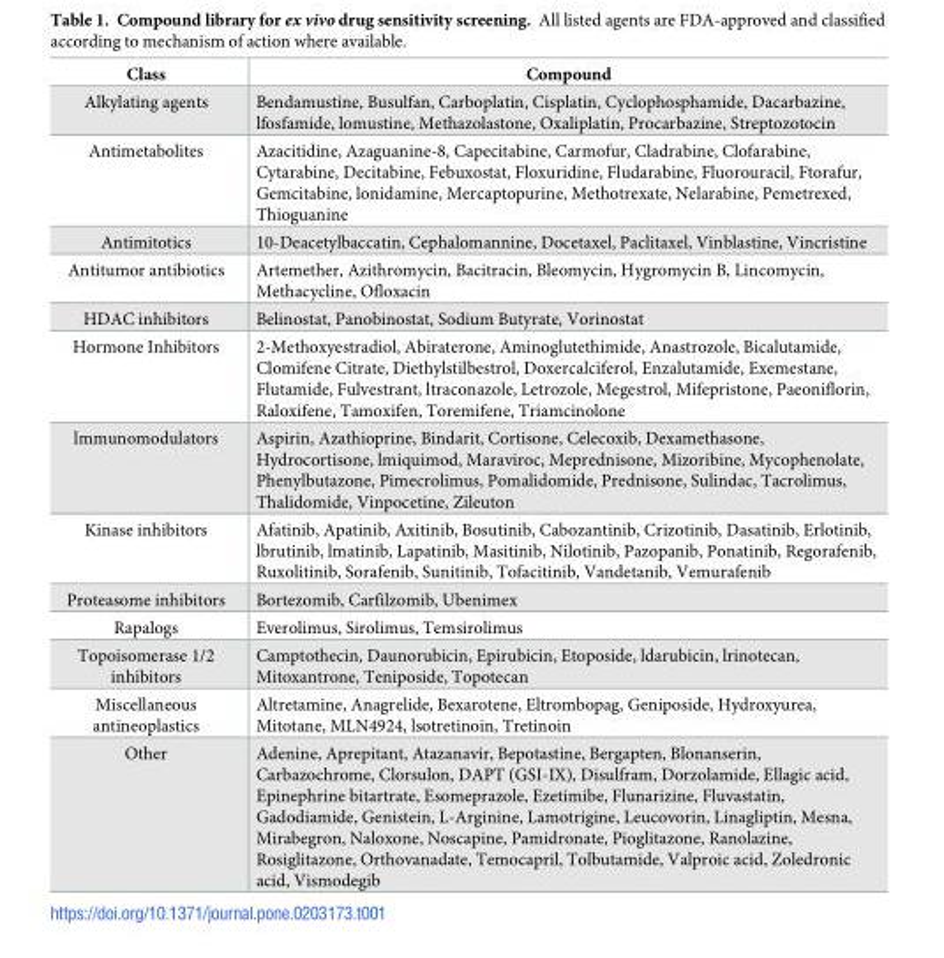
<table><thead><tr><td>Class</td><td>Compound</td></tr></thead><tbody><tr><td>Alkylating agents</td><td>Bendamustine, Busulfan, Carboplatin, Cisplatin, Cyclophosphamide, Dacarbazine, lfosfamide, lomustine, Methazolastone, Oxaliplatin, Procarbazine, Streptozotocin</td></tr><tr><td>Antimetabolites</td><td>Azacitidine, Azaguanine-8, Capecitabine, Carmofur, Cladrabine, Clofarabine, Cytarabine, Decitabine, Febuxostat, Floxuridine, Fludarabine, Fluorouracil, Ftorafur, Gemcitabine, lonidamine, Mercaptopurine, Methotrexate, Nelarabine, Pemetrexed, Thioguanine</td></tr><tr><td>Antimitotics</td><td>10-Deacetylbaccatin, Cephalomannine, Docetaxel, Paclitaxel, Vinblastine, Vincristine</td></tr><tr><td>Antitumor antibiotics</td><td>Artemether, Azithromycin, Bacitracin, Bleomycin, Hygromycin B, Lincomycin, Methacycline, Ofloxacin</td></tr><tr><td>HDAC inhibitors</td><td>Belinostat, Panobinostat, Sodium Butyrate, Vorinostat</td></tr><tr><td>Hormone Inhibitors</td><td>2-Methoxyestradiol, Abiraterone, Aminoglutethimide, Anastrozole, Bicalutamide, Clomifene Citrate, Diethylstilbestrol, Doxercalciferol, Enzalutamide, Exemestane, Flutamide, Fulvestrant, ltraconazole, Letrozole, Megestrol, Mifepristone, Paeoniflorin, Raloxifene, Tamoxifen, Toremifene, Triamcinolone</td></tr><tr><td>lmmunomodulators</td><td>Aspirin, Azathioprine, Bindarit, Cortisone, Celecoxib, Dexamethasone, Hydrocortisone, lmiquimod, Maraviroc, Meprednisone, Mizoribine, Mycophenolate, Phenylbutazone, Pimecrolimus, Pomalidomide, Prednisone, Sulindac, Tacrolimus, Thalidomide, Vinpocetine, Zileuton</td></tr><tr><td>Kinase inhibitors</td><td>Afatinib, Apatinib, Axitinib, Bosutinib, Cabozantinib, Crizotinib, Dasatinib, Erlotinib, lbrutinib, lmatinib, Lapatinib, Masitinib, Nilotinib, Pazopanib, Ponatinib, Regorafenib, Ruxolitinib, Sorafenib, Sunitinib, Tofacitinib, Vandetanib, Vemurafenib</td></tr><tr><td>Proteasome inhibitors</td><td>Bortezomib, Carfilzomib, Ubenimex</td></tr><tr><td>Rapalogs</td><td>Everolimus, Sirolimus, Temsirolimus</td></tr><tr><td>Topoisomerase 1/2 inhibitors</td><td>Camptothecin, Daunorubicin, Epirubicin, Etoposide, ldarubicin, lrinotecan, Mitoxantrone, Teniposide, Topotecan</td></tr><tr><td>Miscellaneous antineoplastics</td><td>Altretamine, Anagrelide, Bexarotene, Eltrombopag, Geniposide, Hydroxyurea, Mitotane, MLN4924, lsotretinoin, Tretinoin</td></tr><tr><td>Other</td><td>Adenine, Aprepitant, Atazanavir, Bepotastine, Bergapten, Blonanserin, Carbazochrome, Clorsulon, DAPT (GSI-IX), Disulfram, Dorzolamide, Ellagic acid, Epinephrine bitartrate, Esomeprazole, Ezetimibe, Flunarizine, Fluvastatin, Gadodiamide, Genistein, L-Arginine, Lamotrigine, Leucovorin, Linagliptin, Mesna, Mirabegron, Naloxone, Noscapine, Pamidronate, Pioglitazone, Ranolazine, Rosiglitazone, Orthovanadate, Temocapril, Tolbutamide, Valproic acid, Zoledronic acid, Vismodegib</td></tr></tbody></table>